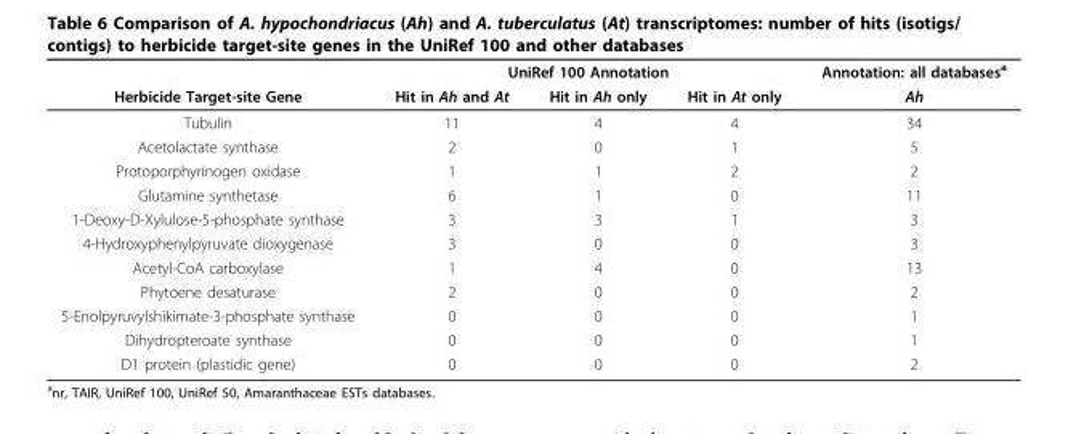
<table><thead><tr><td rowspan="2">Herbicide Target-site Gene</td><td colspan="3">UniRef 100 Annotation</td><td rowspan="2">Annotation: all databases<sup>a</sup> Ah</td></tr><tr><td>Hit in Ah and At</td><td>Hit in Ah only</td><td>Hit in At only</td></tr></thead><tbody><tr><td>Tubulin</td><td>11</td><td>4</td><td>4</td><td>34</td></tr><tr><td>Acetolactate synthase</td><td>2</td><td>0</td><td>1</td><td>5</td></tr><tr><td>Protoporphyrinogen oxidase</td><td>1</td><td>1</td><td>2</td><td>2</td></tr><tr><td>Glutamine synthetase</td><td>6</td><td>1</td><td>0</td><td>11</td></tr><tr><td>1-Deoxy-D-Xylulose-5-phosphate synthase</td><td>3</td><td>3</td><td>1</td><td>3</td></tr><tr><td>4-Hydroxyphenylpyruvate dioxygenase</td><td>3</td><td>0</td><td>0</td><td>3</td></tr><tr><td>Acetyl-CoA carboxylase</td><td>1</td><td>4</td><td>0</td><td>13</td></tr><tr><td>Phytoene desaturase</td><td>2</td><td>0</td><td>0</td><td>2</td></tr><tr><td>5-Enolpyruvylshikimate-3-phosphate synthase</td><td>0</td><td>0</td><td>0</td><td>1</td></tr><tr><td>Dihydropteroate synthase</td><td>0</td><td>0</td><td>0</td><td>1</td></tr><tr><td>D1 protein (plastidic gene)</td><td>0</td><td>0</td><td>0</td><td>2</td></tr></tbody></table>